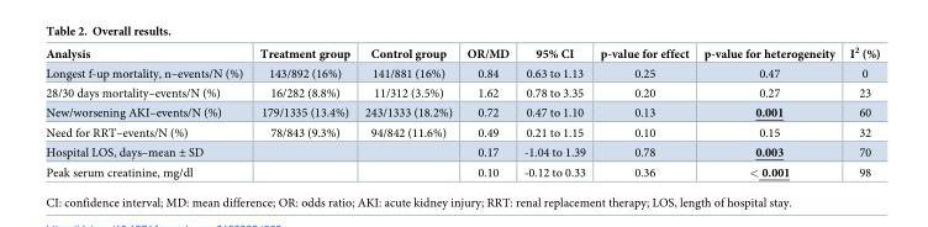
<table><thead><tr><td>Analysis</td><td>Treatment group</td><td>Control group</td><td>OR/MD</td><td>95% CI</td><td>p-value for effect</td><td>p-value for heterogeneity</td><td>I<sup>2</sup> (%)</td></tr></thead><tbody><tr><td>Longest f-up mortality, n–events/N (%)</td><td>143/892 (16%)</td><td>141/881 (16%)</td><td>0.84</td><td>0.63 to 1.13</td><td>0.25</td><td>0.47</td><td>0</td></tr><tr><td>28/30 days mortality–events/N (%)</td><td>16/282 (8.8%)</td><td>11/312 (3.5%)</td><td>1.62</td><td>0.78 to 3.35</td><td>0.20</td><td>0.27</td><td>23</td></tr><tr><td>New/worsening AKI–events/N (%)</td><td>179/1335 (13.4%)</td><td>243/1333 (18.2%)</td><td>0.72</td><td>0.47 to 1.10</td><td>0.13</td><td>0.001</td><td>60</td></tr><tr><td>Need for RRT–events/N (%)</td><td>78/843 (9.3%)</td><td>94/842 (11.6%)</td><td>0.49</td><td>0.21 to 1.15</td><td>0.10</td><td>0.15</td><td>32</td></tr><tr><td>Hospital LOS, days–mean ± SD</td><td></td><td></td><td>0.17</td><td>-1.04 to 1.39</td><td>0.78</td><td>0.003</td><td>70</td></tr><tr><td>Peak serum creatinine, mg/dl</td><td></td><td></td><td>0.10</td><td>-0.12 to 0.33</td><td>0.36</td><td>&lt; 0.001</td><td>98</td></tr></tbody></table>